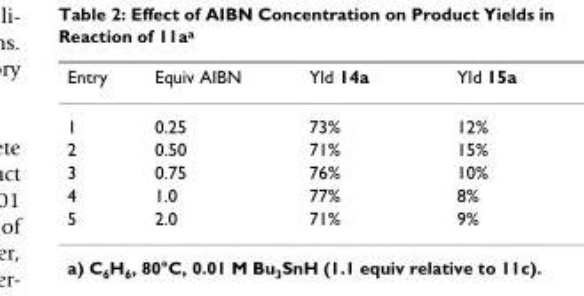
<table><thead><tr><td>Entry</td><td>Equiv AIBN</td><td>Yld 14a</td><td>Yld 15a</td></tr></thead><tbody><tr><td>1</td><td>0.25</td><td>73%</td><td>12%</td></tr><tr><td>2</td><td>0.50</td><td>71%</td><td>15%</td></tr><tr><td>3</td><td>0.75</td><td>76%</td><td>10%</td></tr><tr><td>4</td><td>1.0</td><td>77%</td><td>8%</td></tr><tr><td>5</td><td>2.0</td><td>71%</td><td>9%</td></tr></tbody></table>